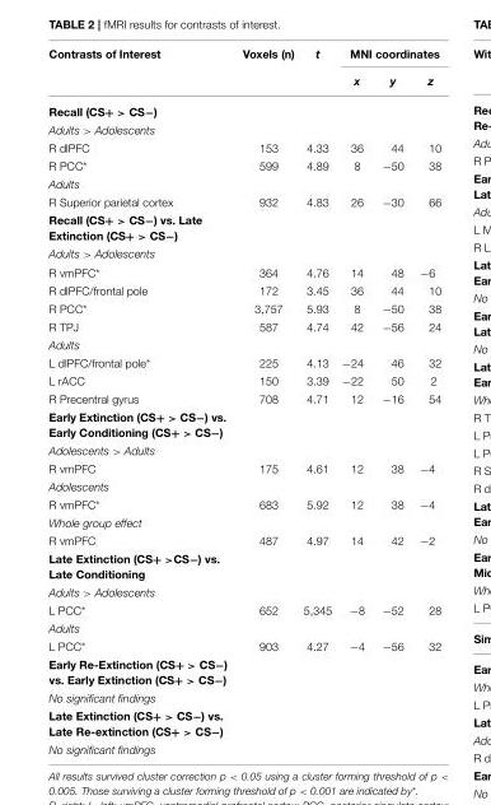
<table><thead><tr><td rowspan="2">Contrasts of Interest</td><td rowspan="2">Voxels (n)</td><td rowspan="2">t</td><td colspan="3">MNI coordinates</td></tr><tr><td>x</td><td>y</td><td>z</td></tr></thead><tbody><tr><td colspan="6">Recall (CS+ &gt; CS−)</td></tr><tr><td colspan="6">Adults &gt; Adolescents</td></tr><tr><td>R dlPFC</td><td>153</td><td>4.33</td><td>36</td><td>44</td><td>10</td></tr><tr><td>R PCC*</td><td>599</td><td>4.89</td><td>8</td><td>−50</td><td>38</td></tr><tr><td colspan="6">Adults</td></tr><tr><td>R Superior parietal cortex</td><td>932</td><td>4.83</td><td>26</td><td>−30</td><td>66</td></tr><tr><td colspan="6">Recall (CS+ &gt; CS−) vs. Late Extinction (CS+ &gt; CS−)</td></tr><tr><td colspan="6">Adults &gt; Adolescents</td></tr><tr><td>R vmPFC*</td><td>364</td><td>4.76</td><td>14</td><td>48</td><td>−6</td></tr><tr><td>R dlPFC/frontal pole</td><td>172</td><td>3.45</td><td>36</td><td>44</td><td>10</td></tr><tr><td>R PCC*</td><td>3,757</td><td>5.93</td><td>8</td><td>−50</td><td>38</td></tr><tr><td>R TPJ</td><td>587</td><td>4.74</td><td>42</td><td>−56</td><td>24</td></tr><tr><td colspan="6">Adults</td></tr><tr><td>L dlPFC/frontal pole*</td><td>225</td><td>4.13</td><td>−24</td><td>46</td><td>32</td></tr><tr><td>L rACC</td><td>150</td><td>3.39</td><td>−22</td><td>50</td><td>2</td></tr><tr><td>R Precentral gyrus</td><td>708</td><td>4.71</td><td>12</td><td>−16</td><td>54</td></tr><tr><td colspan="6">Early Extinction (CS+ &gt; CS−) vs. Early Conditioning (CS+ &gt; CS−)</td></tr><tr><td colspan="6">Adolescents &gt; Adults</td></tr><tr><td>R vmPFC</td><td>175</td><td>4.61</td><td>12</td><td>38</td><td>−4</td></tr><tr><td colspan="6">Adolescents</td></tr><tr><td>R vmPFC*</td><td>683</td><td>5.92</td><td>12</td><td>38</td><td>−4</td></tr><tr><td colspan="6">Whole group effect</td></tr><tr><td>R vmPFC</td><td>487</td><td>4.97</td><td>14</td><td>42</td><td>−2</td></tr><tr><td colspan="6">Late Extinction (CS+ &gt;CS−) vs. Late Conditioning</td></tr><tr><td colspan="6">Adults &gt; Adolescents</td></tr><tr><td>L PCC*</td><td>652</td><td>5,345</td><td>−8</td><td>−52</td><td>28</td></tr><tr><td colspan="6">Adults</td></tr><tr><td>L PCC*</td><td>903</td><td>4.27</td><td>−4</td><td>−56</td><td>32</td></tr><tr><td colspan="6">Early Re-Extinction (CS+ &gt; CS−) vs. Early Extinction (CS+ &gt; CS−)</td></tr><tr><td colspan="6">No significant findings</td></tr><tr><td colspan="6">Late Extinction (CS+ &gt; CS−) vs. Late Re-extinction (CS+ &gt; CS−)</td></tr><tr><td>No significant findings</td><td></td><td></td><td></td><td></td><td></td></tr></tbody></table>